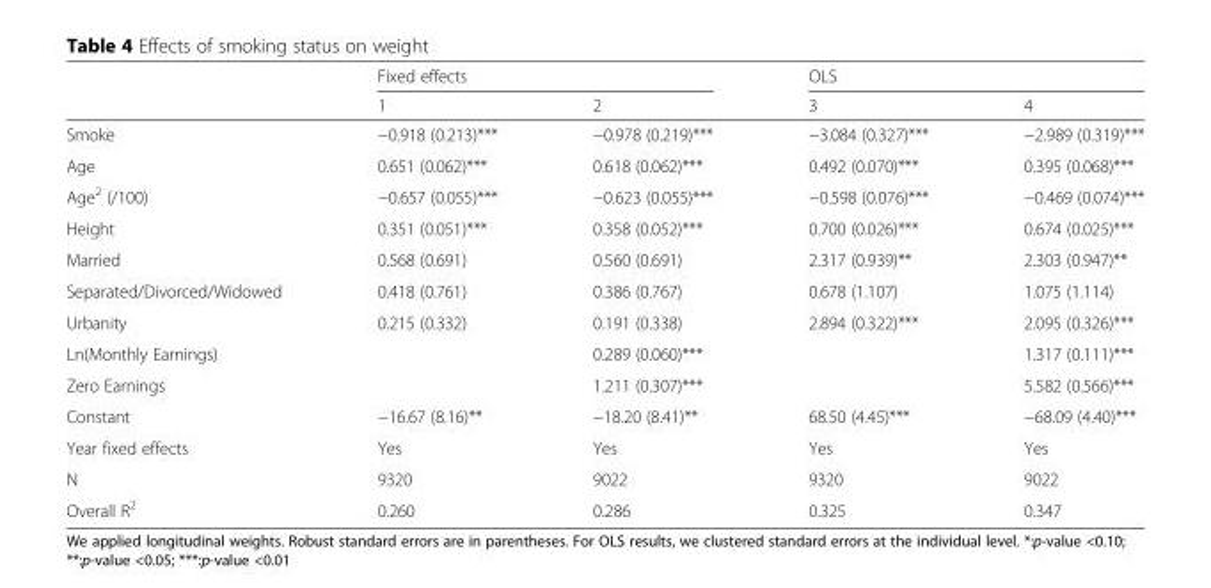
<table><thead><tr><td rowspan="2"></td><td colspan="2">Fixed effects</td><td colspan="2">OLS</td></tr><tr><td>1</td><td>2</td><td>3</td><td>4</td></tr></thead><tbody><tr><td>Smoke</td><td>−0.918 (0.213)***</td><td>−0.978 (0.219)***</td><td>−3.084 (0.327)***</td><td>−2.989 (0.319)***</td></tr><tr><td>Age</td><td>0.651 (0.062)***</td><td>0.618 (0.062)***</td><td>0.492 (0.070)***</td><td>0.395 (0.068)***</td></tr><tr><td>Age<sup>2</sup> (/100)</td><td>−0.657 (0.055)***</td><td>−0.623 (0.055)***</td><td>−0.598 (0.076)***</td><td>−0.469 (0.074)***</td></tr><tr><td>Height</td><td>0.351 (0.051)***</td><td>0.358 (0.052)***</td><td>0.700 (0.026)***</td><td>0.674 (0.025)***</td></tr><tr><td>Married</td><td>0.568 (0.691)</td><td>0.560 (0.691)</td><td>2.317 (0.939)**</td><td>2.303 (0.947)**</td></tr><tr><td>Separated/Divorced/Widowed</td><td>0.418 (0.761)</td><td>0.386 (0.767)</td><td>0.678 (1.107)</td><td>1.075 (1.114)</td></tr><tr><td>Urbanity</td><td>0.215 (0.332)</td><td>0.191 (0.338)</td><td>2.894 (0.322)***</td><td>2.095 (0.326)***</td></tr><tr><td>Ln(Monthly Earnings)</td><td></td><td>0.289 (0.060)***</td><td></td><td>1.317 (0.111)***</td></tr><tr><td>Zero Earnings</td><td></td><td>1.211 (0.307)***</td><td></td><td>5.582 (0.566)***</td></tr><tr><td>Constant</td><td>−16.67 (8.16)**</td><td>−18.20 (8.41)**</td><td>68.50 (4.45)***</td><td>−68.09 (4.40)***</td></tr><tr><td>Year fixed effects</td><td>Yes</td><td>Yes</td><td>Yes</td><td>Yes</td></tr><tr><td>N</td><td>9320</td><td>9022</td><td>9320</td><td>9022</td></tr><tr><td>Overall R<sup>2</sup></td><td>0.260</td><td>0.286</td><td>0.325</td><td>0.347</td></tr></tbody></table>